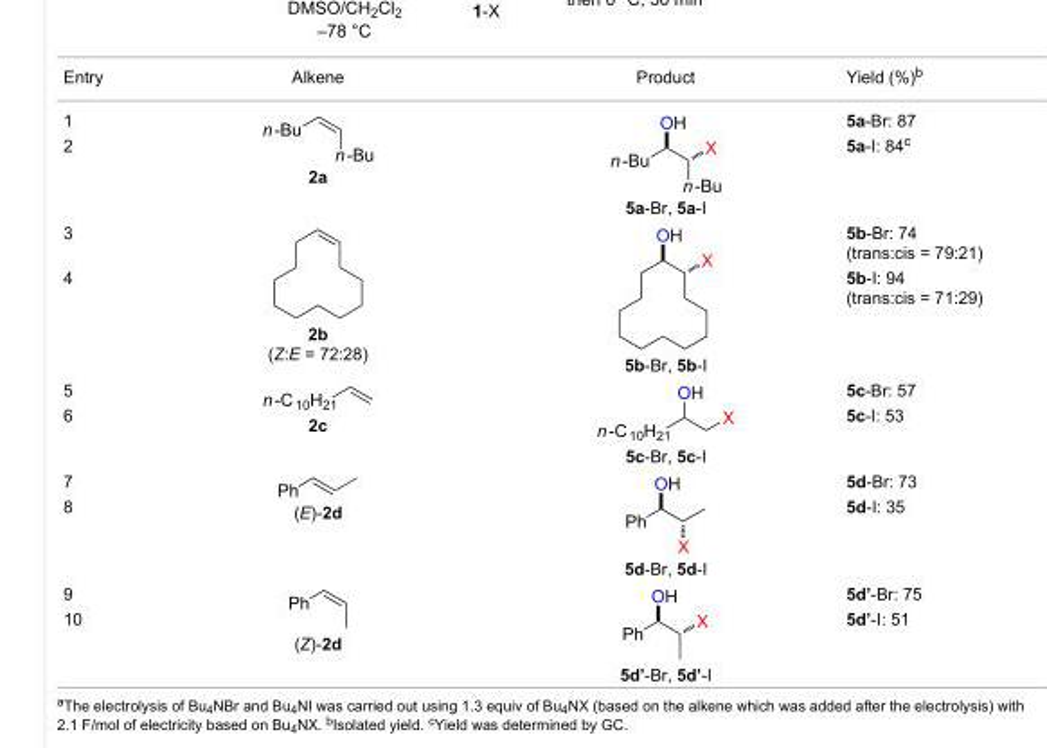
<table><tbody><tr><td>Entry</td><td>Alkene</td><td>Product</td><td>Yield (%)<sup>b</sup></td></tr><tr><td>1</td><td rowspan="2">2a</td><td rowspan="2">5a-Br, 5a-I</td><td>5a-Br: 87</td></tr><tr><td>2</td><td>5a-I: 84<sup>c</sup></td></tr><tr><td>3</td><td rowspan="2">2b (Z:E = 72:28)</td><td rowspan="2">5b-Br, 5b-I</td><td>5b-Br: 74 (trans:cis = 79:21)</td></tr><tr><td>4</td><td>5b-I: 94 (trans:cis = 71:29)</td></tr><tr><td>5</td><td rowspan="2">2c</td><td rowspan="2">5c-Br, 5c-I</td><td>5c-Br: 57</td></tr><tr><td>6</td><td>5c-I: 53</td></tr><tr><td>7</td><td rowspan="2">(E)-2d</td><td rowspan="2">5d-Br, 5d-I</td><td>5d-Br: 73</td></tr><tr><td>8</td><td>5d-I: 35</td></tr><tr><td>9</td><td rowspan="2">(Z)-2d</td><td rowspan="2">5d’-Br, 5d’-I</td><td>5d’-Br: 75</td></tr><tr><td>10</td><td>5d’-I: 51</td></tr></tbody></table>